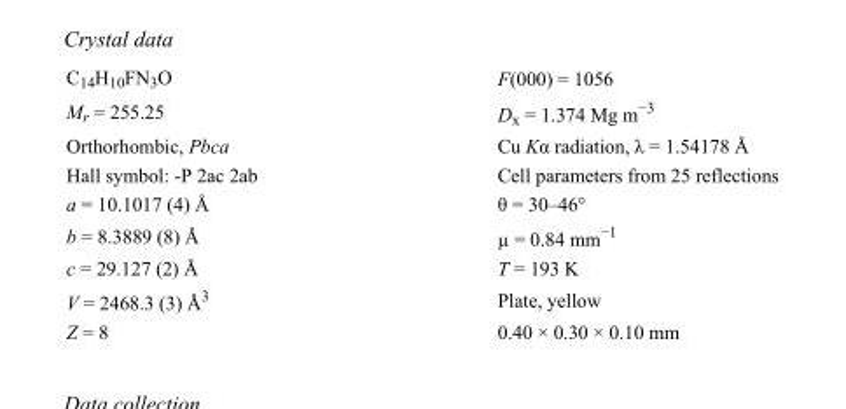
<table><tbody><tr><td>C<sub>14</sub>H<sub>10</sub>FN<sub>3</sub>O</td><td>F(000) = 1056</td></tr><tr><td>M<sub>r</sub> = 255.25</td><td>D<sub>x</sub> = 1.374 Mg m<sup>−3</sup></td></tr><tr><td>Orthorhombic, Pbca</td><td>Cu Kα radiation, λ = 1.54178 Å</td></tr><tr><td>Hall symbol: -P 2ac 2ab</td><td>Cell parameters from 25 reflections</td></tr><tr><td>a = 10.1017 (4) Å</td><td>θ = 30–46°</td></tr><tr><td>b = 8.3889 (8) Å</td><td>µ = 0.84 mm<sup>−1</sup></td></tr><tr><td>c = 29.127 (2) Å</td><td>T = 193 K</td></tr><tr><td>V = 2468.3 (3) Å<sup>3</sup></td><td>Plate, yellow</td></tr><tr><td>Z = 8</td><td>0.40 × 0.30 × 0.10 mm</td></tr></tbody></table>